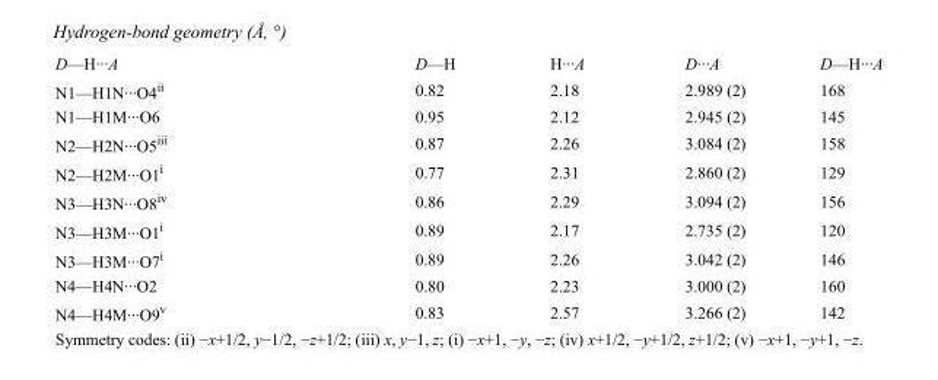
<table><tbody><tr><td>D—H···A</td><td>D—H</td><td>H···A</td><td>D···A</td><td>D—H···A</td></tr><tr><td>N1—H1N···O4<sup>ii</sup></td><td>0.82</td><td>2.18</td><td>2.989 (2)</td><td>168</td></tr><tr><td>N1—H1M···O6</td><td>0.95</td><td>2.12</td><td>2.945 (2)</td><td>145</td></tr><tr><td>N2—H2N···O5<sup>iii</sup></td><td>0.87</td><td>2.26</td><td>3.084 (2)</td><td>158</td></tr><tr><td>N2—H2M···O1<sup>i</sup></td><td>0.77</td><td>2.31</td><td>2.860 (2)</td><td>129</td></tr><tr><td>N3—H3N···O8<sup>iv</sup></td><td>0.86</td><td>2.29</td><td>3.094 (2)</td><td>156</td></tr><tr><td>N3—H3M···O1<sup>i</sup></td><td>0.89</td><td>2.17</td><td>2.735 (2)</td><td>120</td></tr><tr><td>N3—H3M···O7<sup>i</sup></td><td>0.89</td><td>2.26</td><td>3.042 (2)</td><td>146</td></tr><tr><td>N4—H4N···O2</td><td>0.80</td><td>2.23</td><td>3.000 (2)</td><td>160</td></tr><tr><td>N4—H4M···O9<sup>v</sup></td><td>0.83</td><td>2.57</td><td>3.266 (2)</td><td>142</td></tr></tbody></table>